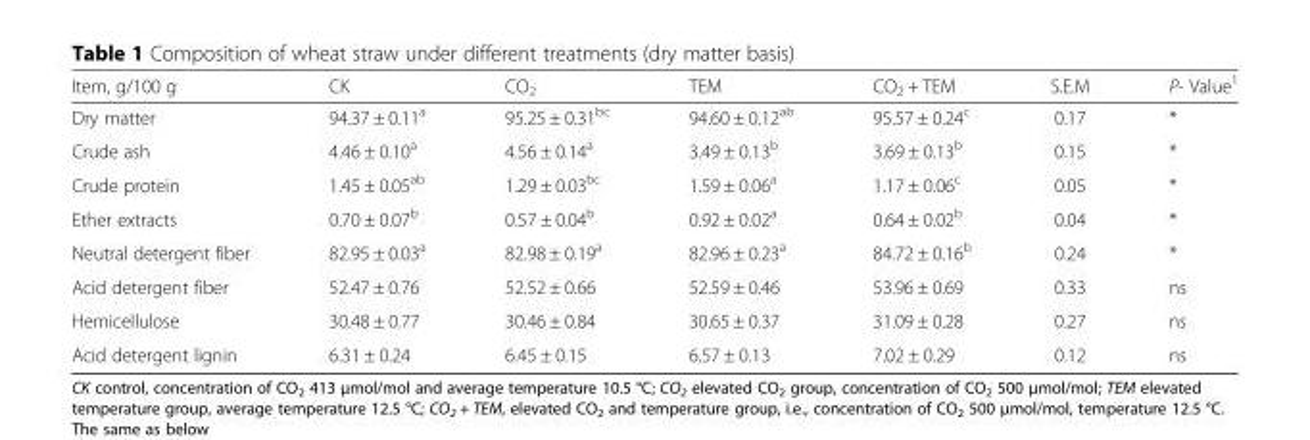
<table><thead><tr><td>Item, g/100 g</td><td>CK</td><td>CO<sub>2</sub></td><td>TEM</td><td>CO<sub>2</sub> + TEM</td><td>S.E.M</td><td>P- Value<sup>1</sup></td></tr></thead><tbody><tr><td>Dry matter</td><td>94.37 ± 0.11<sup>a</sup></td><td>95.25 ± 0.31<sup>bc</sup></td><td>94.60 ± 0.12<sup>ab</sup></td><td>95.57 ± 0.24<sup>c</sup></td><td>0.17</td><td>*</td></tr><tr><td>Crude ash</td><td>4.46 ± 0.10<sup>a</sup></td><td>4.56 ± 0.14<sup>a</sup></td><td>3.49 ± 0.13<sup>b</sup></td><td>3.69 ± 0.13<sup>b</sup></td><td>0.15</td><td>*</td></tr><tr><td>Crude protein</td><td>1.45 ± 0.05<sup>ab</sup></td><td>1.29 ± 0.03<sup>bc</sup></td><td>1.59 ± 0.06<sup>a</sup></td><td>1.17 ± 0.06<sup>c</sup></td><td>0.05</td><td>*</td></tr><tr><td>Ether extracts</td><td>0.70 ± 0.07<sup>b</sup></td><td>0.57 ± 0.04<sup>b</sup></td><td>0.92 ± 0.02<sup>a</sup></td><td>0.64 ± 0.02<sup>b</sup></td><td>0.04</td><td>*</td></tr><tr><td>Neutral detergent fiber</td><td>82.95 ± 0.03<sup>a</sup></td><td>82.98 ± 0.19<sup>a</sup></td><td>82.96 ± 0.23<sup>a</sup></td><td>84.72 ± 0.16<sup>b</sup></td><td>0.24</td><td>*</td></tr><tr><td>Acid detergent fiber</td><td>52.47 ± 0.76</td><td>52.52 ± 0.66</td><td>52.59 ± 0.46</td><td>53.96 ± 0.69</td><td>0.33</td><td>ns</td></tr><tr><td>Hemicellulose</td><td>30.48 ± 0.77</td><td>30.46 ± 0.84</td><td>30.65 ± 0.37</td><td>31.09 ± 0.28</td><td>0.27</td><td>ns</td></tr><tr><td>Acid detergent lignin</td><td>6.31 ± 0.24</td><td>6.45 ± 0.15</td><td>6.57 ± 0.13</td><td>7.02 ± 0.29</td><td>0.12</td><td>ns</td></tr></tbody></table>